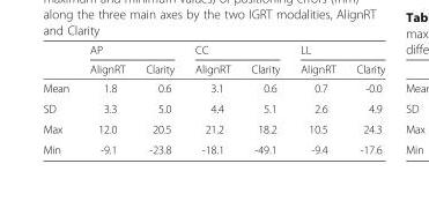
<table><thead><tr><td rowspan="2"></td><td colspan="2">AP</td><td colspan="2">CC</td><td colspan="2">LL</td></tr><tr><td>AlignRT</td><td>Clarity</td><td>AlignRT</td><td>Clarity</td><td>AlignRT</td><td>Clarity</td></tr></thead><tbody><tr><td>Mean</td><td>1.8</td><td>0.6</td><td>3.1</td><td>0.6</td><td>0.7</td><td>-0.0</td></tr><tr><td>SD</td><td>3.3</td><td>5.0</td><td>4.4</td><td>5.1</td><td>2.6</td><td>4.9</td></tr><tr><td>Max</td><td>12.0</td><td>20.5</td><td>21.2</td><td>18.2</td><td>10.5</td><td>24.3</td></tr><tr><td>Min</td><td>-9.1</td><td>-23.8</td><td>-18.1</td><td>-49.1</td><td>-9.4</td><td>-17.6</td></tr></tbody></table>